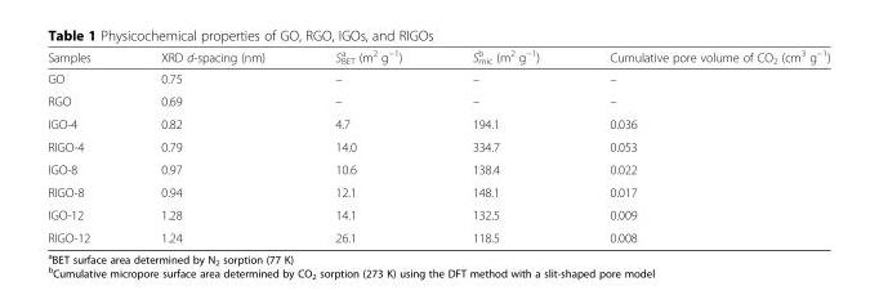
<table><thead><tr><td>Samples</td><td>XRD d-spacing (nm)</td><td>S<sub>BET</sub> <sup>a</sup> (m<sup>2</sup> g<sup>−1</sup>)</td><td>S<sub>mic</sub> <sup>b</sup> (m<sup>2</sup> g<sup>−1</sup>)</td><td>Cumulative pore volume of CO<sub>2</sub> (cm<sup>3</sup> g<sup>−1</sup>)</td></tr></thead><tbody><tr><td>GO</td><td>0.75</td><td>–</td><td>–</td><td>–</td></tr><tr><td>RGO</td><td>0.69</td><td>–</td><td>–</td><td>–</td></tr><tr><td>IGO-4</td><td>0.82</td><td>4.7</td><td>194.1</td><td>0.036</td></tr><tr><td>RIGO-4</td><td>0.79</td><td>14.0</td><td>334.7</td><td>0.053</td></tr><tr><td>IGO-8</td><td>0.97</td><td>10.6</td><td>138.4</td><td>0.022</td></tr><tr><td>RIGO-8</td><td>0.94</td><td>12.1</td><td>148.1</td><td>0.017</td></tr><tr><td>IGO-12</td><td>1.28</td><td>14.1</td><td>132.5</td><td>0.009</td></tr><tr><td>RIGO-12</td><td>1.24</td><td>26.1</td><td>118.5</td><td>0.008</td></tr></tbody></table>